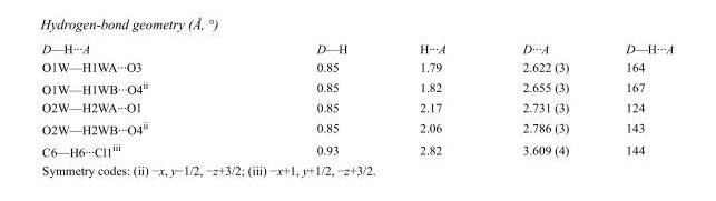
<table><tbody><tr><td>D—H···A</td><td>D—H</td><td>H···A</td><td>D···A</td><td>D—H···A</td></tr><tr><td>O1W—H1WA···O3</td><td>0.85</td><td>1.79</td><td>2.622 (3)</td><td>164</td></tr><tr><td>O1W—H1WB···O4<sup>ii</sup></td><td>0.85</td><td>1.82</td><td>2.655 (3)</td><td>167</td></tr><tr><td>O2W—H2WA···O1</td><td>0.85</td><td>2.17</td><td>2.731 (3)</td><td>124</td></tr><tr><td>O2W—H2WB···O4<sup>ii</sup></td><td>0.85</td><td>2.06</td><td>2.786 (3)</td><td>143</td></tr><tr><td>C6—H6···Cl1<sup>iii</sup></td><td>0.93</td><td>2.82</td><td>3.609 (4)</td><td>144</td></tr></tbody></table>